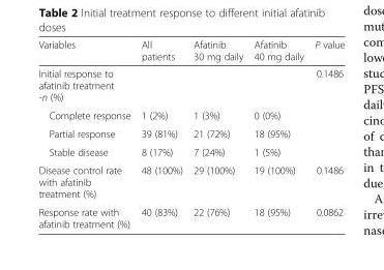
<table><thead><tr><td>Variables</td><td>All patients</td><td>Afatinib 30 mg daily</td><td>Afatinib 40 mg daily</td><td>P value</td></tr></thead><tbody><tr><td>Initial response to afatinib treatment -n (%)</td><td></td><td></td><td></td><td>0.1486</td></tr><tr><td>Complete response</td><td>1 (2%)</td><td>1 (3%)</td><td>0 (0%)</td><td></td></tr><tr><td>Partial response</td><td>39 (81%)</td><td>21 (72%)</td><td>18 (95%)</td><td></td></tr><tr><td>Stable disease</td><td>8 (17%)</td><td>7 (24%)</td><td>1 (5%)</td><td></td></tr><tr><td>Disease control rate with afatinib treatment (%)</td><td>48 (100%)</td><td>29 (100%)</td><td>19 (100%)</td><td>0.1486</td></tr><tr><td>Response rate with afatinib treatment (%)</td><td>40 (83%)</td><td>22 (76%)</td><td>18 (95%)</td><td>0.0862</td></tr></tbody></table>